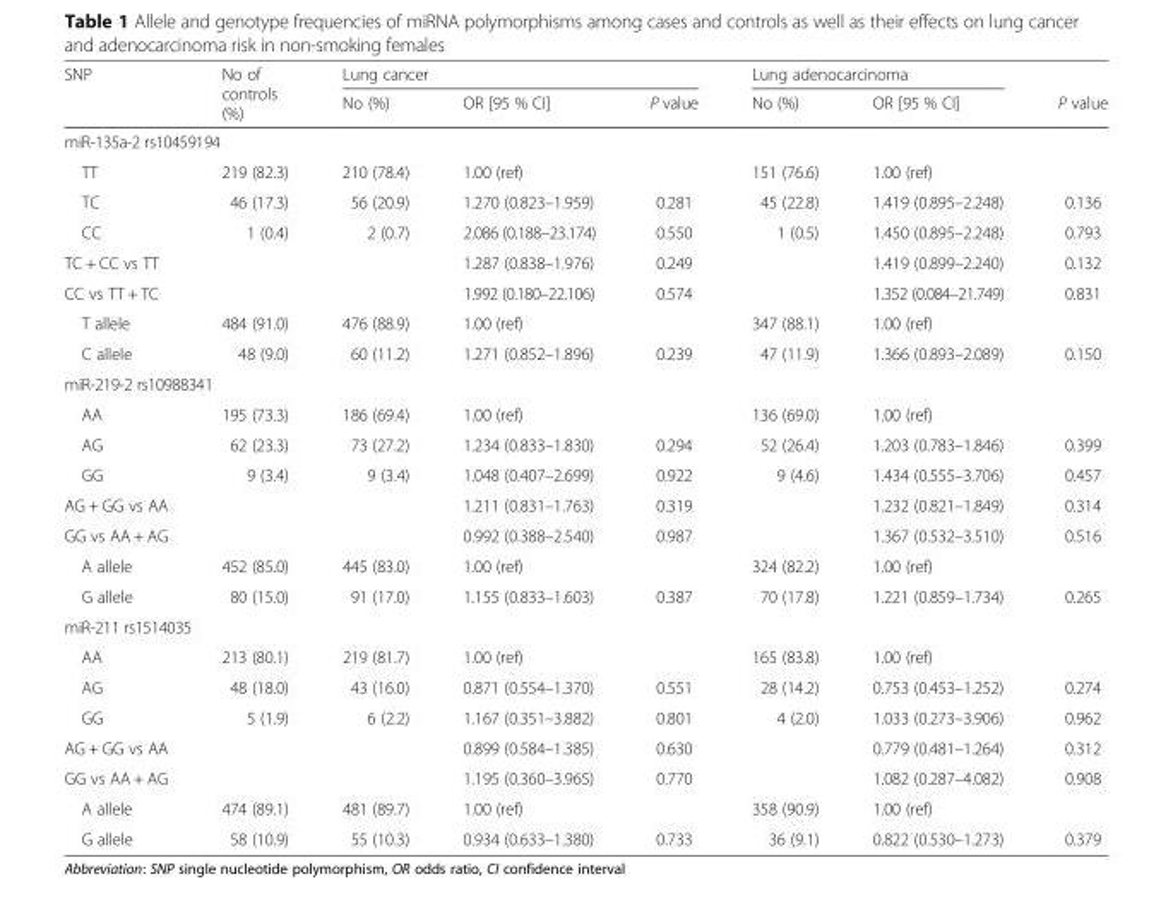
<table><thead><tr><td rowspan="2">SNP</td><td rowspan="2">No of controls (%)</td><td colspan="3">Lung cancer</td><td colspan="2">Lung adenocarcinoma</td><td rowspan="2">P value</td></tr><tr><td>No (%)</td><td>OR [95 % CI]</td><td>P value</td><td>No (%)</td><td>OR [95 % CI]</td></tr></thead><tbody><tr><td colspan="8">miR-135a-2 rs10459194</td></tr><tr><td>TT</td><td>219 (82.3)</td><td>210 (78.4)</td><td>1.00 (ref)</td><td></td><td>151 (76.6)</td><td>1.00 (ref)</td><td></td></tr><tr><td>TC</td><td>46 (17.3)</td><td>56 (20.9)</td><td>1.270 (0.823–1.959)</td><td>0.281</td><td>45 (22.8)</td><td>1.419 (0.895–2.248)</td><td>0.136</td></tr><tr><td>CC</td><td>1 (0.4)</td><td>2 (0.7)</td><td>2.086 (0.188–23.174)</td><td>0.550</td><td>1 (0.5)</td><td>1.450 (0.895–2.248)</td><td>0.793</td></tr><tr><td>TC + CC vs TT</td><td></td><td></td><td>1.287 (0.838–1.976)</td><td>0.249</td><td></td><td>1.419 (0.899–2.240)</td><td>0.132</td></tr><tr><td>CC vs TT + TC</td><td></td><td></td><td>1.992 (0.180–22.106)</td><td>0.574</td><td></td><td>1.352 (0.084–21.749)</td><td>0.831</td></tr><tr><td>T allele</td><td>484 (91.0)</td><td>476 (88.9)</td><td>1.00 (ref)</td><td></td><td>347 (88.1)</td><td>1.00 (ref)</td><td></td></tr><tr><td>C allele</td><td>48 (9.0)</td><td>60 (11.2)</td><td>1.271 (0.852–1.896)</td><td>0.239</td><td>47 (11.9)</td><td>1.366 (0.893–2.089)</td><td>0.150</td></tr><tr><td colspan="8">miR-219-2 rs10988341</td></tr><tr><td>AA</td><td>195 (73.3)</td><td>186 (69.4)</td><td>1.00 (ref)</td><td></td><td>136 (69.0)</td><td>1.00 (ref)</td><td></td></tr><tr><td>AG</td><td>62 (23.3)</td><td>73 (27.2)</td><td>1.234 (0.833–1.830)</td><td>0.294</td><td>52 (26.4)</td><td>1.203 (0.783–1.846)</td><td>0.399</td></tr><tr><td>GG</td><td>9 (3.4)</td><td>9 (3.4)</td><td>1.048 (0.407–2.699)</td><td>0.922</td><td>9 (4.6)</td><td>1.434 (0.555–3.706)</td><td>0.457</td></tr><tr><td>AG + GG vs AA</td><td></td><td></td><td>1.211 (0.831–1.763)</td><td>0.319</td><td></td><td>1.232 (0.821–1.849)</td><td>0.314</td></tr><tr><td>GG vs AA + AG</td><td></td><td></td><td>0.992 (0.388–2.540)</td><td>0.987</td><td></td><td>1.367 (0.532–3.510)</td><td>0.516</td></tr><tr><td>A allele</td><td>452 (85.0)</td><td>445 (83.0)</td><td>1.00 (ref)</td><td></td><td>324 (82.2)</td><td>1.00 (ref)</td><td></td></tr><tr><td>G allele</td><td>80 (15.0)</td><td>91 (17.0)</td><td>1.155 (0.833–1.603)</td><td>0.387</td><td>70 (17.8)</td><td>1.221 (0.859–1.734)</td><td>0.265</td></tr><tr><td colspan="8">miR-211 rs1514035</td></tr><tr><td>AA</td><td>213 (80.1)</td><td>219 (81.7)</td><td>1.00 (ref)</td><td></td><td>165 (83.8)</td><td>1.00 (ref)</td><td></td></tr><tr><td>AG</td><td>48 (18.0)</td><td>43 (16.0)</td><td>0.871 (0.554–1.370)</td><td>0.551</td><td>28 (14.2)</td><td>0.753 (0.453–1.252)</td><td>0.274</td></tr><tr><td>GG</td><td>5 (1.9)</td><td>6 (2.2)</td><td>1.167 (0.351–3.882)</td><td>0.801</td><td>4 (2.0)</td><td>1.033 (0.273–3.906)</td><td>0.962</td></tr><tr><td>AG + GG vs AA</td><td></td><td></td><td>0.899 (0.584–1.385)</td><td>0.630</td><td></td><td>0.779 (0.481–1.264)</td><td>0.312</td></tr><tr><td>GG vs AA + AG</td><td></td><td></td><td>1.195 (0.360–3.965)</td><td>0.770</td><td></td><td>1.082 (0.287–4.082)</td><td>0.908</td></tr><tr><td>A allele</td><td>474 (89.1)</td><td>481 (89.7)</td><td>1.00 (ref)</td><td></td><td>358 (90.9)</td><td>1.00 (ref)</td><td></td></tr><tr><td>G allele</td><td>58 (10.9)</td><td>55 (10.3)</td><td>0.934 (0.633–1.380)</td><td>0.733</td><td>36 (9.1)</td><td>0.822 (0.530–1.273)</td><td>0.379</td></tr></tbody></table>